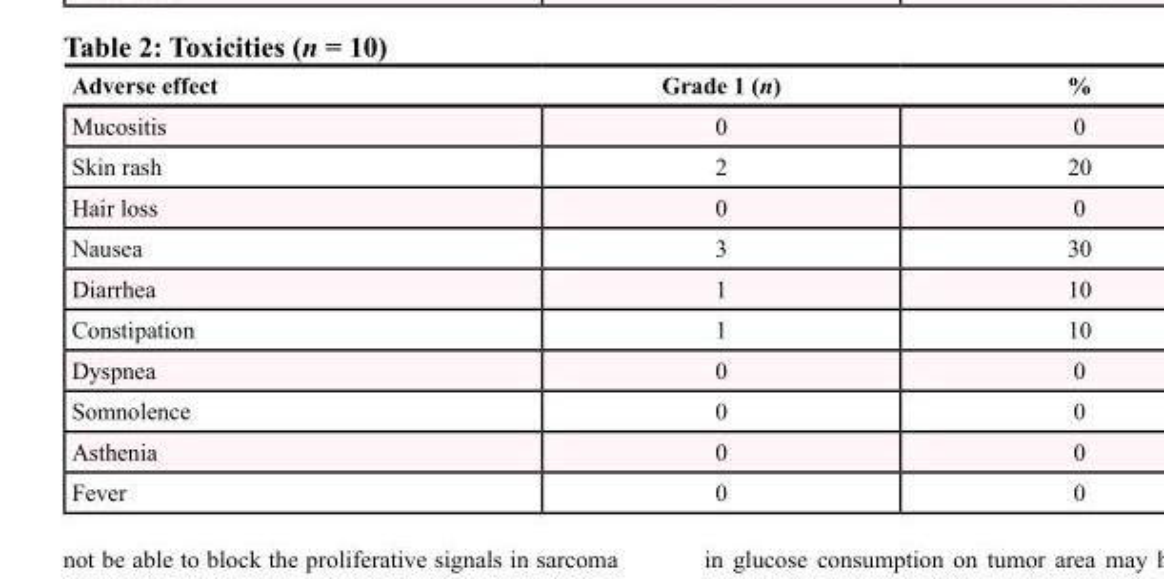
<table><thead><tr><td>Adverse effect</td><td>Grade 1 (n)</td><td>%</td></tr></thead><tbody><tr><td>Mucositis</td><td>0</td><td>0</td></tr><tr><td>Skin rash</td><td>2</td><td>20</td></tr><tr><td>Hair loss</td><td>0</td><td>0</td></tr><tr><td>Nausea</td><td>3</td><td>30</td></tr><tr><td>Diarrhea</td><td>1</td><td>10</td></tr><tr><td>Constipation</td><td>1</td><td>10</td></tr><tr><td>Dyspnea</td><td>0</td><td>0</td></tr><tr><td>Somnolence</td><td>0</td><td>0</td></tr><tr><td>Asthenia</td><td>0</td><td>0</td></tr><tr><td>Fever</td><td>0</td><td>0</td></tr></tbody></table>